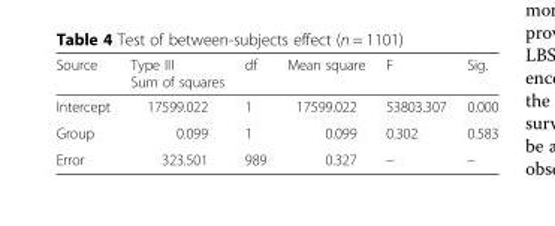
<table><thead><tr><td>Source</td><td>Type III Sum of squares</td><td>df</td><td>Mean square</td><td>F</td><td>Sig.</td></tr></thead><tbody><tr><td>Intercept</td><td>17599.022</td><td>1</td><td>17599.022</td><td>53803.307</td><td>0.000</td></tr><tr><td>Group</td><td>0.099</td><td>1</td><td>0.099</td><td>0.302</td><td>0.583</td></tr><tr><td>Error</td><td>323.501</td><td>989</td><td>0.327</td><td>–</td><td>–</td></tr></tbody></table>